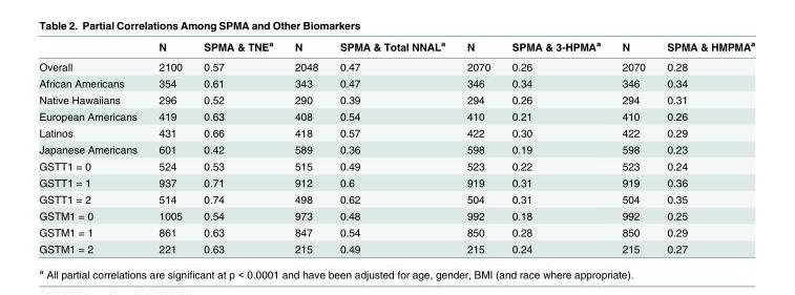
<table><thead><tr><td></td><td>N</td><td>SPMA &amp; TNE<sup>a</sup></td><td>N</td><td>SPMA &amp; Total NNAL<sup>a</sup></td><td>N</td><td>SPMA &amp; 3-HPMA<sup>a</sup></td><td>N</td><td>SPMA &amp; HMPMA<sup>a</sup></td></tr></thead><tbody><tr><td>Overall</td><td>2100</td><td>0.57</td><td>2048</td><td>0.47</td><td>2070</td><td>0.26</td><td>2070</td><td>0.28</td></tr><tr><td>African Americans</td><td>354</td><td>0.61</td><td>343</td><td>0.47</td><td>346</td><td>0.34</td><td>346</td><td>0.34</td></tr><tr><td>Native Hawaiians</td><td>296</td><td>0.52</td><td>290</td><td>0.39</td><td>294</td><td>0.26</td><td>294</td><td>0.31</td></tr><tr><td>European Americans</td><td>419</td><td>0.63</td><td>408</td><td>0.54</td><td>410</td><td>0.21</td><td>410</td><td>0.26</td></tr><tr><td>Latinos</td><td>431</td><td>0.66</td><td>418</td><td>0.57</td><td>422</td><td>0.30</td><td>422</td><td>0.29</td></tr><tr><td>Japanese Americans</td><td>601</td><td>0.42</td><td>589</td><td>0.36</td><td>598</td><td>0.19</td><td>598</td><td>0.23</td></tr><tr><td>GSTT1 = 0</td><td>524</td><td>0.53</td><td>515</td><td>0.49</td><td>523</td><td>0.22</td><td>523</td><td>0.24</td></tr><tr><td>GSTT1 = 1</td><td>937</td><td>0.71</td><td>912</td><td>0.6</td><td>919</td><td>0.31</td><td>919</td><td>0.36</td></tr><tr><td>GSTT1 = 2</td><td>514</td><td>0.74</td><td>498</td><td>0.62</td><td>504</td><td>0.31</td><td>504</td><td>0.35</td></tr><tr><td>GSTM1 = 0</td><td>1005</td><td>0.54</td><td>973</td><td>0.48</td><td>992</td><td>0.18</td><td>992</td><td>0.25</td></tr><tr><td>GSTM1 = 1</td><td>861</td><td>0.63</td><td>847</td><td>0.54</td><td>850</td><td>0.28</td><td>850</td><td>0.29</td></tr><tr><td>GSTM1 = 2</td><td>221</td><td>0.63</td><td>215</td><td>0.49</td><td>215</td><td>0.24</td><td>215</td><td>0.27</td></tr></tbody></table>